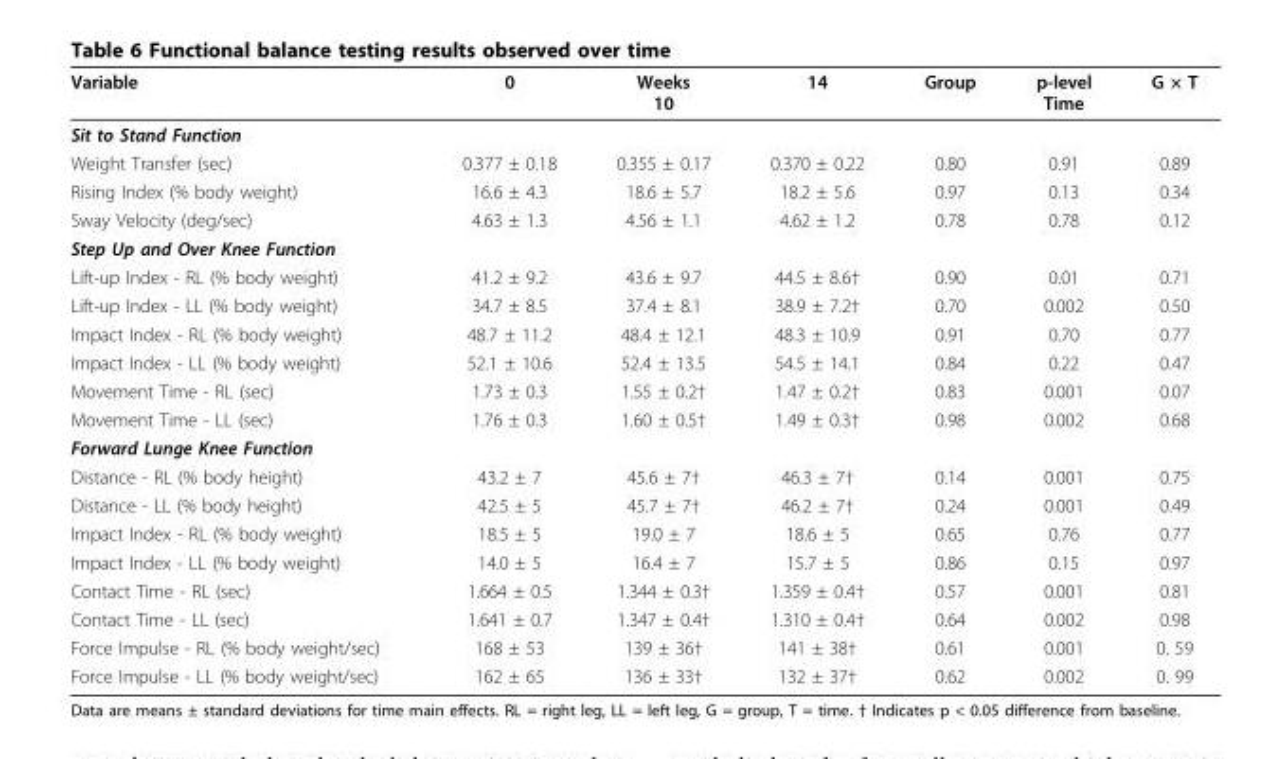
<table><thead><tr><td>Variable</td><td>0</td><td>Weeks 10</td><td>14</td><td>Group</td><td>p-level Time</td><td>G × T</td></tr></thead><tbody><tr><td colspan="7">Sit to Stand Function</td></tr><tr><td>Weight Transfer (sec)</td><td>0.377 ± 0.18</td><td>0.355 ± 0.17</td><td>0.370 ± 0.22</td><td>0.80</td><td>0.91</td><td>0.89</td></tr><tr><td>Rising Index (% body weight)</td><td>16.6 ± 4.3</td><td>18.6 ± 5.7</td><td>18.2 ± 5.6</td><td>0.97</td><td>0.13</td><td>0.34</td></tr><tr><td>Sway Velocity (deg/sec)</td><td>4.63 ± 1.3</td><td>4.56 ± 1.1</td><td>4.62 ± 1.2</td><td>0.78</td><td>0.78</td><td>0.12</td></tr><tr><td colspan="7">Step Up and Over Knee Function</td></tr><tr><td>Lift-up Index - RL (% body weight)</td><td>41.2 ± 9.2</td><td>43.6 ± 9.7</td><td>44.5 ± 8.6†</td><td>0.90</td><td>0.01</td><td>0.71</td></tr><tr><td>Lift-up Index - LL (% body weight)</td><td>34.7 ± 8.5</td><td>37.4 ± 8.1</td><td>38.9 ± 7.2†</td><td>0.70</td><td>0.002</td><td>0.50</td></tr><tr><td>Impact Index - RL (% body weight)</td><td>48.7 ± 11.2</td><td>48.4 ± 12.1</td><td>48.3 ± 10.9</td><td>0.91</td><td>0.70</td><td>0.77</td></tr><tr><td>Impact Index - LL (% body weight)</td><td>52.1 ± 10.6</td><td>52.4 ± 13.5</td><td>54.5 ± 14.1</td><td>0.84</td><td>0.22</td><td>0.47</td></tr><tr><td>Movement Time - RL (sec)</td><td>1.73 ± 0.3</td><td>1.55 ± 0.2†</td><td>1.47 ± 0.2†</td><td>0.83</td><td>0.001</td><td>0.07</td></tr><tr><td>Movement Time - LL (sec)</td><td>1.76 ± 0.3</td><td>1.60 ± 0.5†</td><td>1.49 ± 0.3†</td><td>0.98</td><td>0.002</td><td>0.68</td></tr><tr><td colspan="7">Forward Lunge Knee Function</td></tr><tr><td>Distance - RL (% body height)</td><td>43.2 ± 7</td><td>45.6 ± 7†</td><td>46.3 ± 7†</td><td>0.14</td><td>0.001</td><td>0.75</td></tr><tr><td>Distance - LL (% body height)</td><td>42.5 ± 5</td><td>45.7 ± 7†</td><td>46.2 ± 7†</td><td>0.24</td><td>0.001</td><td>0.49</td></tr><tr><td>Impact Index - RL (% body weight)</td><td>18.5 ± 5</td><td>19.0 ± 7</td><td>18.6 ± 5</td><td>0.65</td><td>0.76</td><td>0.77</td></tr><tr><td>Impact Index - LL (% body weight)</td><td>14.0 ± 5</td><td>16.4 ± 7</td><td>15.7 ± 5</td><td>0.86</td><td>0.15</td><td>0.97</td></tr><tr><td>Contact Time - RL (sec)</td><td>1.664 ± 0.5</td><td>1.344 ± 0.3†</td><td>1.359 ± 0.4†</td><td>0.57</td><td>0.001</td><td>0.81</td></tr><tr><td>Contact Time - LL (sec)</td><td>1.641 ± 0.7</td><td>1.347 ± 0.4†</td><td>1.310 ± 0.4†</td><td>0.64</td><td>0.002</td><td>0.98</td></tr><tr><td>Force Impulse - RL (% body weight/sec)</td><td>168 ± 53</td><td>139 ± 36†</td><td>141 ± 38†</td><td>0.61</td><td>0.001</td><td>0. 59</td></tr><tr><td>Force Impulse - LL (% body weight/sec)</td><td>162 ± 65</td><td>136 ± 33†</td><td>132 ± 37†</td><td>0.62</td><td>0.002</td><td>0. 99</td></tr></tbody></table>